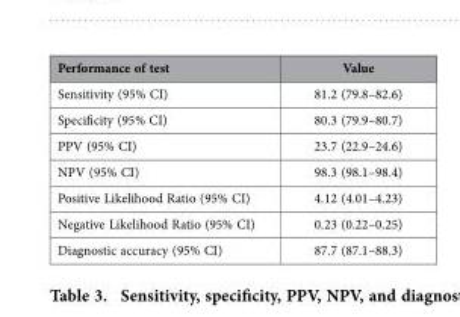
<table><thead><tr><td>Performance of test</td><td>Value</td></tr></thead><tbody><tr><td>Sensitivity (95% CI)</td><td>81.2 (79.8–82.6)</td></tr><tr><td>Specificity (95% CI)</td><td>80.3 (79.9–80.7)</td></tr><tr><td>PPV (95% CI)</td><td>23.7 (22.9–24.6)</td></tr><tr><td>NPV (95% CI)</td><td>98.3 (98.1–98.4)</td></tr><tr><td>Positive Likelihood Ratio (95% CI)</td><td>4.12 (4.01–4.23)</td></tr><tr><td>Negative Likelihood Ratio (95% CI)</td><td>0.23 (0.22–0.25)</td></tr><tr><td>Diagnostic accuracy (95% CI)</td><td>87.7 (87.1–88.3)</td></tr></tbody></table>